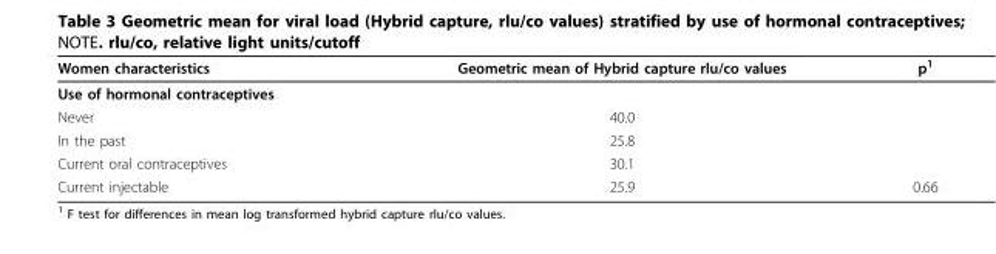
<table><thead><tr><td>Women characteristics</td><td>Geometric mean of Hybrid capture rlu/co values</td><td>p<sup>1</sup></td></tr></thead><tbody><tr><td colspan="3">Use of hormonal contraceptives</td></tr><tr><td>Never</td><td>40.0</td><td></td></tr><tr><td>In the past</td><td>25.8</td><td></td></tr><tr><td>Current oral contraceptives</td><td>30.1</td><td></td></tr><tr><td>Current injectable</td><td>25.9</td><td>0.66</td></tr></tbody></table>